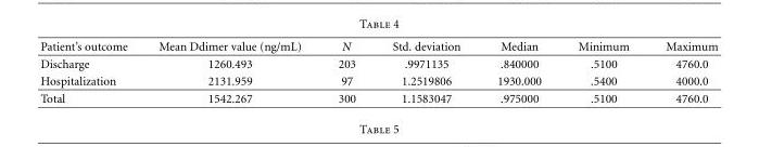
<table><thead><tr><td>Patient’s outcome</td><td>Mean Ddimer value (ng/mL)</td><td>N</td><td>Std. deviation</td><td>Median</td><td>Minimum</td><td>Maximum</td></tr></thead><tbody><tr><td>Discharge</td><td>1260.493</td><td>203</td><td>.9971135</td><td>.840000</td><td>.5100</td><td>4760.0</td></tr><tr><td>Hospitalization</td><td>2131.959</td><td>97</td><td>1.2519806</td><td>1930.000</td><td>.5400</td><td>4000.0</td></tr><tr><td>Total</td><td>1542.267</td><td>300</td><td>1.1583047</td><td>.975000</td><td>.5100</td><td>4760.0</td></tr></tbody></table>